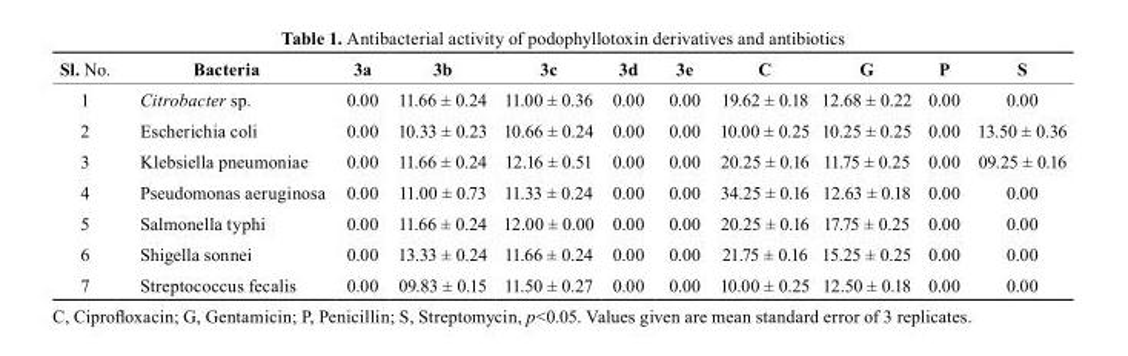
<table><thead><tr><td>sl. No.</td><td>bacteria</td><td>3a</td><td>3b</td><td>3c</td><td>3d</td><td>3e</td><td>c</td><td>G</td><td>P</td><td>s</td></tr></thead><tbody><tr><td>1</td><td>Citrobacter sp.</td><td>0.00</td><td>11.66 ± 0.24</td><td>11.00 ± 0.36</td><td>0.00</td><td>0.00</td><td>19.62 ± 0.18</td><td>12.68 ± 0.22</td><td>0.00</td><td>0.00</td></tr><tr><td>2</td><td>Escherichia coli</td><td>0.00</td><td>10.33 ± 0.23</td><td>10.66 ± 0.24</td><td>0.00</td><td>0.00</td><td>10.00 ± 0.25</td><td>10.25 ± 0.25</td><td>0.00</td><td>13.50 ± 0.36</td></tr><tr><td>3</td><td>Klebsiella pneumoniae</td><td>0.00</td><td>11.66 ± 0.24</td><td>12.16 ± 0.51</td><td>0.00</td><td>0.00</td><td>20.25 ± 0.16</td><td>11.75 ± 0.25</td><td>0.00</td><td>09.25 ± 0.16</td></tr><tr><td>4</td><td>Pseudomonas aeruginosa</td><td>0.00</td><td>11.00 ± 0.73</td><td>11.33 ± 0.24</td><td>0.00</td><td>0.00</td><td>34.25 ± 0.16</td><td>12.63 ± 0.18</td><td>0.00</td><td>0.00</td></tr><tr><td>5</td><td>Salmonella typhi</td><td>0.00</td><td>11.66 ± 0.24</td><td>12.00 ± 0.00</td><td>0.00</td><td>0.00</td><td>20.25 ± 0.16</td><td>17.75 ± 0.25</td><td>0.00</td><td>0.00</td></tr><tr><td>6</td><td>Shigella sonnei</td><td>0.00</td><td>13.33 ± 0.24</td><td>11.66 ± 0.24</td><td>0.00</td><td>0.00</td><td>21.75 ± 0.16</td><td>15.25 ± 0.25</td><td>0.00</td><td>0.00</td></tr><tr><td>7</td><td>Streptococcus fecalis</td><td>0.00</td><td>09.83 ± 0.15</td><td>11.50 ± 0.27</td><td>0.00</td><td>0.00</td><td>10.00 ± 0.25</td><td>12.50 ± 0.18</td><td>0.00</td><td>0.00</td></tr></tbody></table>